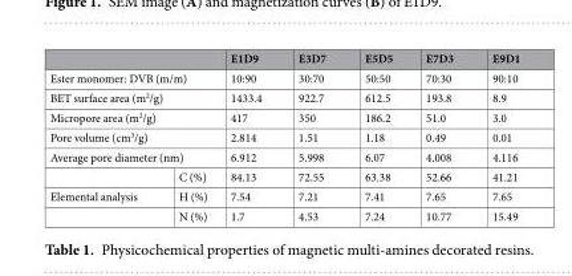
<table><thead><tr><td></td><td></td><td>E1D9</td><td>E3D7</td><td>E5D5</td><td>E7D3</td><td>E9D1</td></tr></thead><tbody><tr><td colspan="2">Ester monomer: DVB (m/m)</td><td>10:90</td><td>30:70</td><td>50:50</td><td>70:30</td><td>90:10</td></tr><tr><td colspan="2">BET surface area (m<sup>2</sup>/g)</td><td>1433.4</td><td>922.7</td><td>612.5</td><td>193.8</td><td>8.9</td></tr><tr><td colspan="2">Micropore area (m<sup>2</sup>/g)</td><td>417</td><td>350</td><td>186.2</td><td>51.0</td><td>3.0</td></tr><tr><td colspan="2">Pore volume (cm<sup>3</sup>/g)</td><td>2.814</td><td>1.51</td><td>1.18</td><td>0.49</td><td>0.01</td></tr><tr><td colspan="2">Average pore diameter (nm)</td><td>6.912</td><td>5.998</td><td>6.07</td><td>4.008</td><td>4.116</td></tr><tr><td></td><td>C (%)</td><td>84.13</td><td>72.55</td><td>63.38</td><td>52.66</td><td>41.21</td></tr><tr><td rowspan="2">Elemental analysis</td><td>H (%)</td><td>7.54</td><td>7.21</td><td>7.41</td><td>7.65</td><td>7.65</td></tr><tr><td>N (%)</td><td>1.7</td><td>4.53</td><td>7.24</td><td>10.77</td><td>15.49</td></tr></tbody></table>